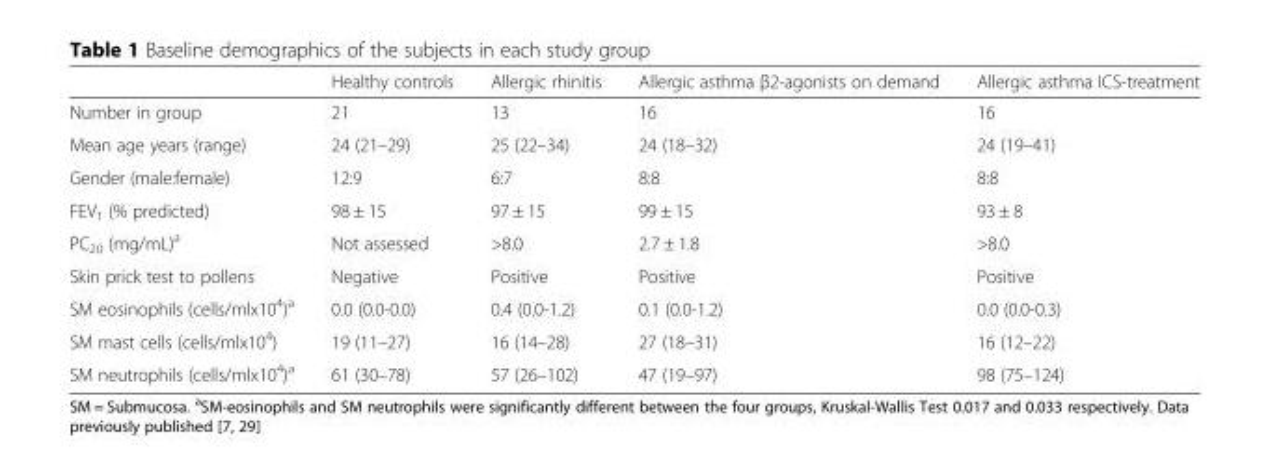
<table><thead><tr><td></td><td>Healthy controls</td><td>Allergic rhinitis</td><td>Allergic asthma β2-agonists on demand</td><td>Allergic asthma ICS-treatment</td></tr></thead><tbody><tr><td>Number in group</td><td>21</td><td>13</td><td>16</td><td>16</td></tr><tr><td>Mean age years (range)</td><td>24 (21–29)</td><td>25 (22–34)</td><td>24 (18–32)</td><td>24 (19–41)</td></tr><tr><td>Gender (male:female)</td><td>12:9</td><td>6:7</td><td>8:8</td><td>8:8</td></tr><tr><td>FEV<sub>1</sub> (% predicted)</td><td>98 ± 15</td><td>97 ± 15</td><td>99 ± 15</td><td>93 ± 8</td></tr><tr><td>PC<sub>20</sub> (mg/mL)<sup>a</sup></td><td>Not assessed</td><td>&gt;8.0</td><td>2.7 ± 1.8</td><td>&gt;8.0</td></tr><tr><td>Skin prick test to pollens</td><td>Negative</td><td>Positive</td><td>Positive</td><td>Positive</td></tr><tr><td>SM eosinophils (cells/mlx10<sup>4</sup>)<sup>a</sup></td><td>0.0 (0.0-0.0)</td><td>0.4 (0.0-1.2)</td><td>0.1 (0.0-1.2)</td><td>0.0 (0.0-0.3)</td></tr><tr><td>SM mast cells (cells/mlx10<sup>4</sup>)</td><td>19 (11–27)</td><td>16 (14–28)</td><td>27 (18–31)</td><td>16 (12–22)</td></tr><tr><td>SM neutrophils (cells/mlx10<sup>4</sup>)<sup>a</sup></td><td>61 (30–78)</td><td>57 (26–102)</td><td>47 (19–97)</td><td>98 (75–124)</td></tr></tbody></table>